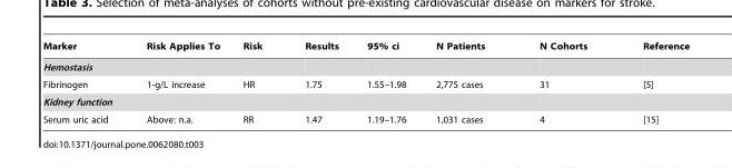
<table><thead><tr><td>Marker</td><td>Risk Applies To</td><td>Risk</td><td>Results</td><td>95% ci</td><td>N Patients</td><td>N Cohorts</td><td>Reference</td></tr></thead><tbody><tr><td colspan="8">Hemostasis</td></tr><tr><td>Fibrinogen</td><td>1-g/L increase</td><td>HR</td><td>1.75</td><td>1.55–1.98</td><td>2,775 cases</td><td>31</td><td>[5]</td></tr><tr><td colspan="8">Kidney function</td></tr><tr><td>Serum uric acid</td><td>Above: n.a.</td><td>RR</td><td>1.47</td><td>1.19–1.76</td><td>1,031 cases</td><td>4</td><td>[15]</td></tr></tbody></table>